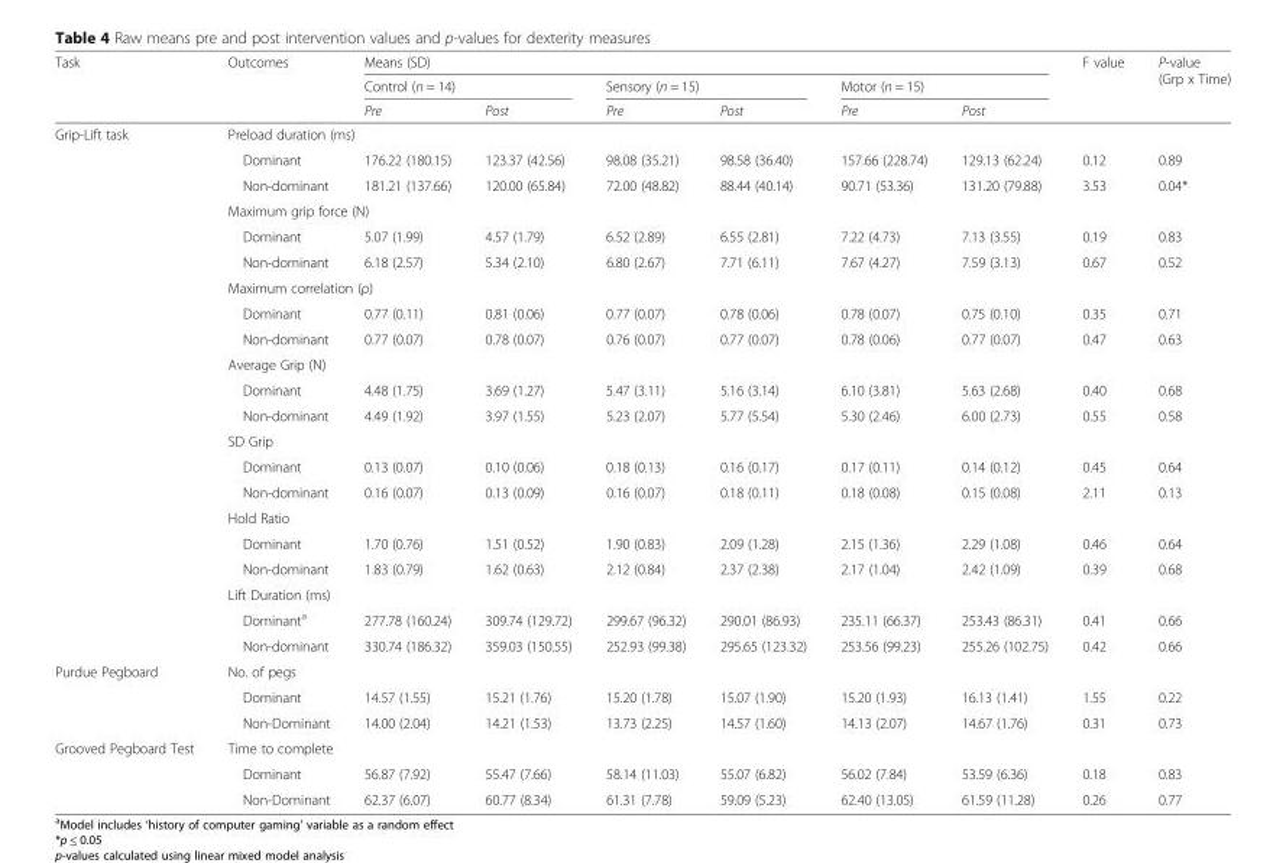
<table><thead><tr><td rowspan="3">Task</td><td rowspan="3">Outcomes</td><td colspan="6">Means (SD)</td><td rowspan="3">F value</td><td rowspan="3">P-value (Grp x Time)</td></tr><tr><td colspan="2">Control (n = 14)</td><td colspan="2">Sensory (n = 15)</td><td colspan="2">Motor (n = 15)</td></tr><tr><td>Pre</td><td>Post</td><td>Pre</td><td>Post</td><td>Pre</td><td>Post</td></tr></thead><tbody><tr><td rowspan="21">Grip-Lift task</td><td colspan="9">Preload duration (ms)</td></tr><tr><td>Dominant</td><td>176.22 (180.15)</td><td>123.37 (42.56)</td><td>98.08 (35.21)</td><td>98.58 (36.40)</td><td>157.66 (228.74)</td><td>129.13 (62.24)</td><td>0.12</td><td>0.89</td></tr><tr><td>Non-dominant</td><td>181.21 (137.66)</td><td>120.00 (65.84)</td><td>72.00 (48.82)</td><td>88.44 (40.14)</td><td>90.71 (53.36)</td><td>131.20 (79.88)</td><td>3.53</td><td>0.04*</td></tr><tr><td colspan="9">Maximum grip force (N)</td></tr><tr><td>Dominant</td><td>5.07 (1.99)</td><td>4.57 (1.79)</td><td>6.52 (2.89)</td><td>6.55 (2.81)</td><td>7.22 (4.73)</td><td>7.13 (3.55)</td><td>0.19</td><td>0.83</td></tr><tr><td>Non-dominant</td><td>6.18 (2.57)</td><td>5.34 (2.10)</td><td>6.80 (2.67)</td><td>7.71 (6.11)</td><td>7.67 (4.27)</td><td>7.59 (3.13)</td><td>0.67</td><td>0.52</td></tr><tr><td colspan="9">Maximum correlation (ρ)</td></tr><tr><td>Dominant</td><td>0.77 (0.11)</td><td>0.81 (0.06)</td><td>0.77 (0.07)</td><td>0.78 (0.06)</td><td>0.78 (0.07)</td><td>0.75 (0.10)</td><td>0.35</td><td>0.71</td></tr><tr><td>Non-dominant</td><td>0.77 (0.07)</td><td>0.78 (0.07)</td><td>0.76 (0.07)</td><td>0.77 (0.07)</td><td>0.78 (0.06)</td><td>0.77 (0.07)</td><td>0.47</td><td>0.63</td></tr><tr><td colspan="9">Average Grip (N)</td></tr><tr><td>Dominant</td><td>4.48 (1.75)</td><td>3.69 (1.27)</td><td>5.47 (3.11)</td><td>5.16 (3.14)</td><td>6.10 (3.81)</td><td>5.63 (2.68)</td><td>0.40</td><td>0.68</td></tr><tr><td>Non-dominant</td><td>4.49 (1.92)</td><td>3.97 (1.55)</td><td>5.23 (2.07)</td><td>5.77 (5.54)</td><td>5.30 (2.46)</td><td>6.00 (2.73)</td><td>0.55</td><td>0.58</td></tr><tr><td colspan="9">SD Grip</td></tr><tr><td>Dominant</td><td>0.13 (0.07)</td><td>0.10 (0.06)</td><td>0.18 (0.13)</td><td>0.16 (0.17)</td><td>0.17 (0.11)</td><td>0.14 (0.12)</td><td>0.45</td><td>0.64</td></tr><tr><td>Non-dominant</td><td>0.16 (0.07)</td><td>0.13 (0.09)</td><td>0.16 (0.07)</td><td>0.18 (0.11)</td><td>0.18 (0.08)</td><td>0.15 (0.08)</td><td>2.11</td><td>0.13</td></tr><tr><td colspan="9">Hold Ratio</td></tr><tr><td>Dominant</td><td>1.70 (0.76)</td><td>1.51 (0.52)</td><td>1.90 (0.83)</td><td>2.09 (1.28)</td><td>2.15 (1.36)</td><td>2.29 (1.08)</td><td>0.46</td><td>0.64</td></tr><tr><td>Non-dominant</td><td>1.83 (0.79)</td><td>1.62 (0.63)</td><td>2.12 (0.84)</td><td>2.37 (2.38)</td><td>2.17 (1.04)</td><td>2.42 (1.09)</td><td>0.39</td><td>0.68</td></tr><tr><td colspan="9">Lift Duration (ms)</td></tr><tr><td>Dominant<sup>a</sup></td><td>277.78 (160.24)</td><td>309.74 (129.72)</td><td>299.67 (96.32)</td><td>290.01 (86.93)</td><td>235.11 (66.37)</td><td>253.43 (86.31)</td><td>0.41</td><td>0.66</td></tr><tr><td>Non-dominant</td><td>330.74 (186.32)</td><td>359.03 (150.55)</td><td>252.93 (99.38)</td><td>295.65 (123.32)</td><td>253.56 (99.23)</td><td>255.26 (102.75)</td><td>0.42</td><td>0.66</td></tr><tr><td rowspan="3">Purdue Pegboard</td><td colspan="9">No. of pegs</td></tr><tr><td>Dominant</td><td>14.57 (1.55)</td><td>15.21 (1.76)</td><td>15.20 (1.78)</td><td>15.07 (1.90)</td><td>15.20 (1.93)</td><td>16.13 (1.41)</td><td>1.55</td><td>0.22</td></tr><tr><td>Non-Dominant</td><td>14.00 (2.04)</td><td>14.21 (1.53)</td><td>13.73 (2.25)</td><td>14.57 (1.60)</td><td>14.13 (2.07)</td><td>14.67 (1.76)</td><td>0.31</td><td>0.73</td></tr><tr><td rowspan="3">Grooved Pegboard Test</td><td colspan="9">Time to complete</td></tr><tr><td>Dominant</td><td>56.87 (7.92)</td><td>55.47 (7.66)</td><td>58.14 (11.03)</td><td>55.07 (6.82)</td><td>56.02 (7.84)</td><td>53.59 (6.36)</td><td>0.18</td><td>0.83</td></tr><tr><td>Non-Dominant</td><td>62.37 (6.07)</td><td>60.77 (8.34)</td><td>61.31 (7.78)</td><td>59.09 (5.23)</td><td>62.40 (13.05)</td><td>61.59 (11.28)</td><td>0.26</td><td>0.77</td></tr></tbody></table>